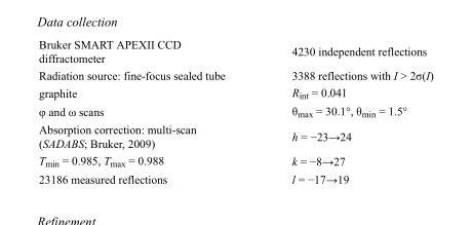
<table><tbody><tr><td>Bruker SMART APEXII CCD diffractometer</td><td>4230 independent reflections</td></tr><tr><td>Radiation source: fine-focus sealed tube</td><td>3388 reflections with I &gt; 2σ(I)</td></tr><tr><td>graphite</td><td>R<sub>int</sub> = 0.041</td></tr><tr><td>φ and ω scans</td><td>θ<sub>max</sub> = 30.1°, θ<sub>min</sub> = 1.5°</td></tr><tr><td>Absorption correction: multi-scan (SADABS; Bruker, 2009)</td><td>h = −23→24</td></tr><tr><td>T<sub>min</sub> = 0.985, T<sub>max</sub> = 0.988</td><td>k = −8→27</td></tr><tr><td>23186 measured reflections</td><td>l = −17→19</td></tr></tbody></table>